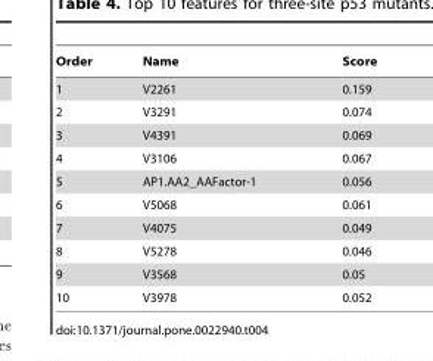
<table><thead><tr><td>Order</td><td>Name</td><td>Score</td></tr></thead><tbody><tr><td>1</td><td>V2261</td><td>0.159</td></tr><tr><td>2</td><td>V3291</td><td>0.074</td></tr><tr><td>3</td><td>V4391</td><td>0.069</td></tr><tr><td>4</td><td>V3106</td><td>0.067</td></tr><tr><td>5</td><td>AP1.AA2_AAFactor-1</td><td>0.056</td></tr><tr><td>6</td><td>V5068</td><td>0.061</td></tr><tr><td>7</td><td>V4075</td><td>0.049</td></tr><tr><td>8</td><td>V5278</td><td>0.046</td></tr><tr><td>9</td><td>V3568</td><td>0.05</td></tr><tr><td>10</td><td>V3978</td><td>0.052</td></tr></tbody></table>